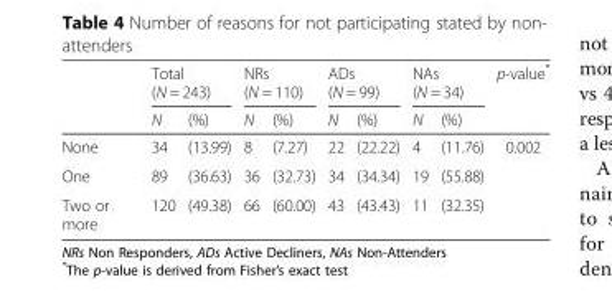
<table><thead><tr><td rowspan="2"></td><td colspan="2">Total (N = 243)</td><td colspan="2">NRs (N = 110)</td><td colspan="2">ADs (N = 99)</td><td colspan="2">NAs (N = 34)</td><td rowspan="2">p-value*</td></tr><tr><td>N</td><td>(%)</td><td>N</td><td>(%)</td><td>N</td><td>(%)</td><td>N</td><td>(%)</td></tr></thead><tbody><tr><td>None</td><td>34</td><td>(13.99)</td><td>8</td><td>(7.27)</td><td>22</td><td>(22.22)</td><td>4</td><td>(11.76)</td><td rowspan="3">0.002</td></tr><tr><td>One</td><td>89</td><td>(36.63)</td><td>36</td><td>(32.73)</td><td>34</td><td>(34.34)</td><td>19</td><td>(55.88)</td></tr><tr><td>Two or more</td><td>120</td><td>(49.38)</td><td>66</td><td>(60.00)</td><td>43</td><td>(43.43)</td><td>11</td><td>(32.35)</td></tr></tbody></table>